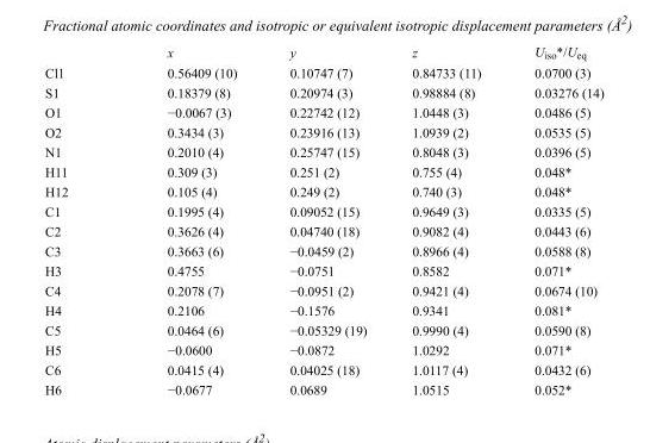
<table><thead><tr><td></td><td>x</td><td>y</td><td>z</td><td>U<sub>iso</sub>*/U<sub>eq</sub></td></tr></thead><tbody><tr><td>Cl1</td><td>0.56409 (10)</td><td>0.10747 (7)</td><td>0.84733 (11)</td><td>0.0700 (3)</td></tr><tr><td>S1</td><td>0.18379 (8)</td><td>0.20974 (3)</td><td>0.98884 (8)</td><td>0.03276 (14)</td></tr><tr><td>O1</td><td>−0.0067 (3)</td><td>0.22742 (12)</td><td>1.0448 (3)</td><td>0.0486 (5)</td></tr><tr><td>O2</td><td>0.3434 (3)</td><td>0.23916 (13)</td><td>1.0939 (2)</td><td>0.0535 (5)</td></tr><tr><td>N1</td><td>0.2010 (4)</td><td>0.25747 (15)</td><td>0.8048 (3)</td><td>0.0396 (5)</td></tr><tr><td>H11</td><td>0.309 (3)</td><td>0.251 (2)</td><td>0.755 (4)</td><td>0.048*</td></tr><tr><td>H12</td><td>0.105 (4)</td><td>0.249 (2)</td><td>0.740 (3)</td><td>0.048*</td></tr><tr><td>C1</td><td>0.1995 (4)</td><td>0.09052 (15)</td><td>0.9649 (3)</td><td>0.0335 (5)</td></tr><tr><td>C2</td><td>0.3626 (4)</td><td>0.04740 (18)</td><td>0.9082 (4)</td><td>0.0443 (6)</td></tr><tr><td>C3</td><td>0.3663 (6)</td><td>−0.0459 (2)</td><td>0.8966 (4)</td><td>0.0588 (8)</td></tr><tr><td>H3</td><td>0.4755</td><td>−0.0751</td><td>0.8582</td><td>0.071*</td></tr><tr><td>C4</td><td>0.2078 (7)</td><td>−0.0951 (2)</td><td>0.9421 (4)</td><td>0.0674 (10)</td></tr><tr><td>H4</td><td>0.2106</td><td>−0.1576</td><td>0.9341</td><td>0.081*</td></tr><tr><td>C5</td><td>0.0464 (6)</td><td>−0.05329 (19)</td><td>0.9990 (4)</td><td>0.0590 (8)</td></tr><tr><td>H5</td><td>−0.0600</td><td>−0.0872</td><td>1.0292</td><td>0.071*</td></tr><tr><td>C6</td><td>0.0415 (4)</td><td>0.04025 (18)</td><td>1.0117 (4)</td><td>0.0432 (6)</td></tr><tr><td>H6</td><td>−0.0677</td><td>0.0689</td><td>1.0515</td><td>0.052*</td></tr></tbody></table>